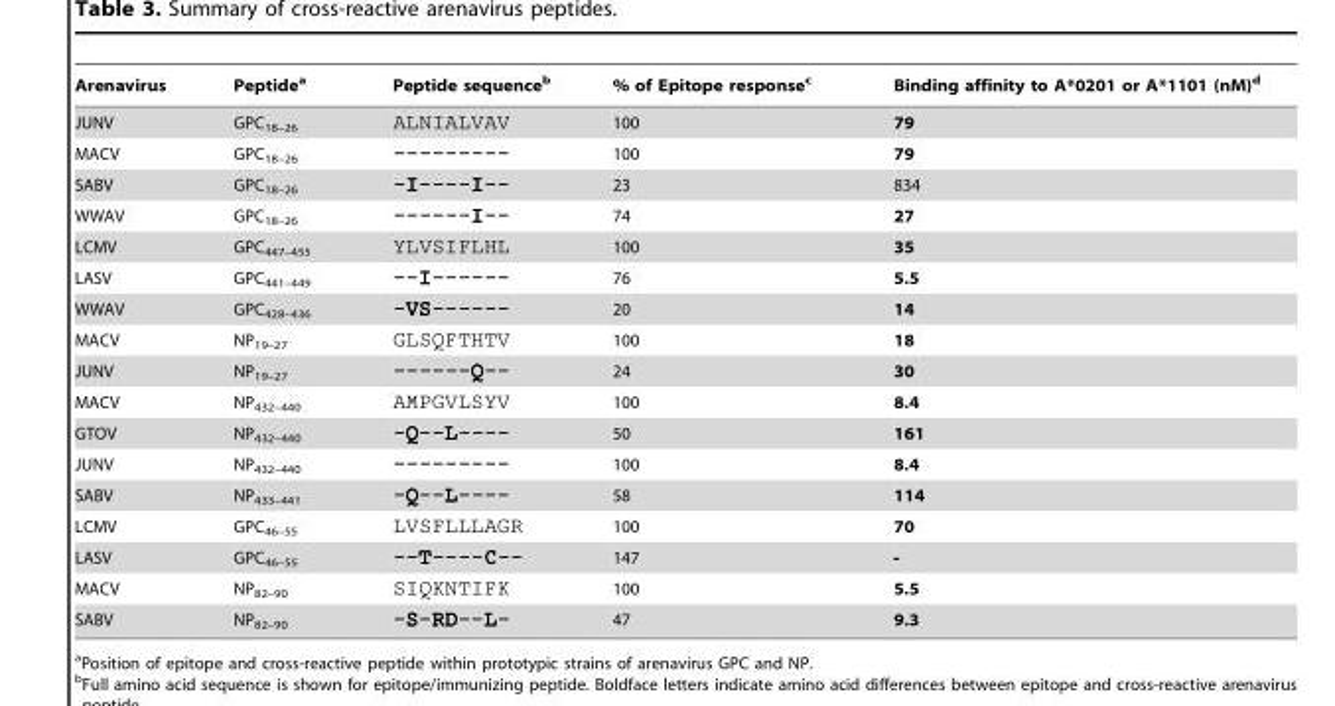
<table><thead><tr><td>Arenavirus</td><td>Peptide<sup>a</sup></td><td>Peptide sequence<sup>b</sup></td><td>% of Epitope response<sup>c</sup></td><td>Binding affinity to A*0201 or A*1101 (nM)<sup>d</sup></td></tr></thead><tbody><tr><td>JUNV</td><td>GPC<sub>18–26</sub></td><td>ALNIALVAV</td><td>100</td><td>79</td></tr><tr><td>MACV</td><td>GPC<sub>18–26</sub></td><td>---------</td><td>100</td><td>79</td></tr><tr><td>SABV</td><td>GPC<sub>18–26</sub></td><td>-II----II--</td><td>23</td><td>834</td></tr><tr><td>WWAV</td><td>GPC<sub>18–26</sub></td><td>------II--</td><td>74</td><td>27</td></tr><tr><td>LCMV</td><td>GPC<sub>447–455</sub></td><td>YLVSIFLHL</td><td>100</td><td>35</td></tr><tr><td>LASV</td><td>GPC<sub>441–449</sub></td><td>--II------</td><td>76</td><td>5.5</td></tr><tr><td>WWAV</td><td>GPC<sub>428–436</sub></td><td>-VVS------</td><td>20</td><td>14</td></tr><tr><td>MACV</td><td>NP<sub>19–27</sub></td><td>GLSQFTHTV</td><td>100</td><td>18</td></tr><tr><td>JUNV</td><td>NP<sub>19–27</sub></td><td>------QQ--</td><td>24</td><td>30</td></tr><tr><td>MACV</td><td>NP<sub>432–440</sub></td><td>AMPGVLSYV</td><td>100</td><td>8.4</td></tr><tr><td>GTOV</td><td>NP<sub>432–440</sub></td><td>-QQ--LL----</td><td>50</td><td>161</td></tr><tr><td>JUNV</td><td>NP<sub>432–440</sub></td><td>---------</td><td>100</td><td>8.4</td></tr><tr><td>SABV</td><td>NP<sub>433–441</sub></td><td>-QQ--LL----</td><td>58</td><td>114</td></tr><tr><td>LCMV</td><td>GPC<sub>46–55</sub></td><td>LVSFLLLAGR</td><td>100</td><td>70</td></tr><tr><td>LASV</td><td>GPC<sub>46–55</sub></td><td>--TT----CC--</td><td>147</td><td>--</td></tr><tr><td>MACV</td><td>NP<sub>82–90</sub></td><td>SIQKNTIFK</td><td>100</td><td>5.5</td></tr><tr><td>SABV</td><td>NP<sub>82–90</sub></td><td>-SS-RRD--LL-</td><td>47</td><td>9.3</td></tr></tbody></table>